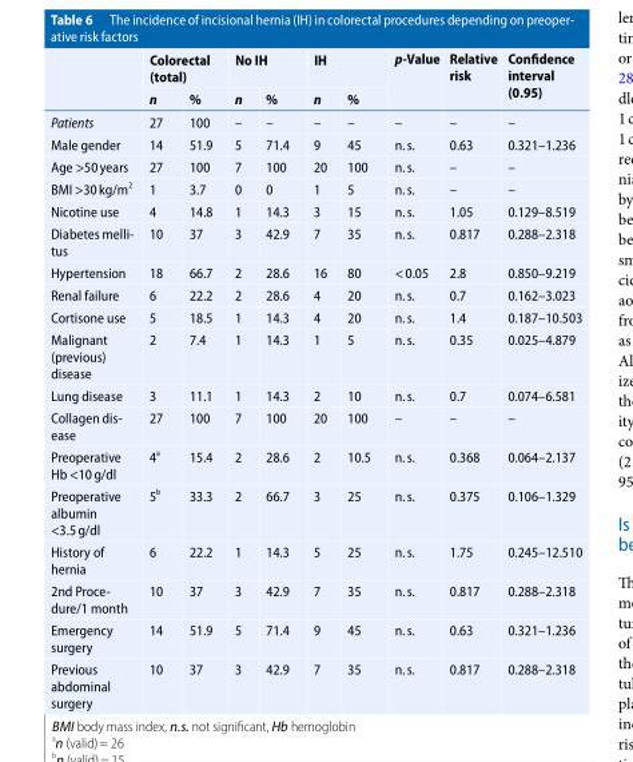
<table><thead><tr><td rowspan="2"></td><td colspan="2">Colorectal (total)</td><td colspan="2">No IH</td><td colspan="2">IH</td><td rowspan="2">p-Value</td><td rowspan="2">Relative risk</td><td rowspan="2">Confidence interval (0.95)</td></tr><tr><td>n</td><td>%</td><td>n</td><td>%</td><td>n</td><td>%</td></tr></thead><tbody><tr><td>Patients</td><td>27</td><td>100</td><td>–</td><td>–</td><td>–</td><td>–</td><td>–</td><td>–</td><td>–</td></tr><tr><td>Male gender</td><td>14</td><td>51.9</td><td>5</td><td>71.4</td><td>9</td><td>45</td><td>n.s.</td><td>0.63</td><td>0.321–1.236</td></tr><tr><td>Age &gt;50years</td><td>27</td><td>100</td><td>7</td><td>100</td><td>20</td><td>100</td><td>n.s.</td><td>–</td><td>–</td></tr><tr><td>BMI &gt;30kg/m<sup>2</sup></td><td>1</td><td>3.7</td><td>0</td><td>0</td><td>1</td><td>5</td><td>n.s.</td><td>–</td><td>–</td></tr><tr><td>Nicotine use</td><td>4</td><td>14.8</td><td>1</td><td>14.3</td><td>3</td><td>15</td><td>n.s.</td><td>1.05</td><td>0.129–8.519</td></tr><tr><td>Diabetes melli- tus</td><td>10</td><td>37</td><td>3</td><td>42.9</td><td>7</td><td>35</td><td>n.s.</td><td>0.817</td><td>0.288–2.318</td></tr><tr><td>Hypertension</td><td>18</td><td>66.7</td><td>2</td><td>28.6</td><td>16</td><td>80</td><td>&lt;0.05</td><td>2.8</td><td>0.850–9.219</td></tr><tr><td>Renal failure</td><td>6</td><td>22.2</td><td>2</td><td>28.6</td><td>4</td><td>20</td><td>n.s.</td><td>0.7</td><td>0.162–3.023</td></tr><tr><td>Cortisone use</td><td>5</td><td>18.5</td><td>1</td><td>14.3</td><td>4</td><td>20</td><td>n.s.</td><td>1.4</td><td>0.187–10.503</td></tr><tr><td>Malignant (previous) disease</td><td>2</td><td>7.4</td><td>1</td><td>14.3</td><td>1</td><td>5</td><td>n.s.</td><td>0.35</td><td>0.025–4.879</td></tr><tr><td>Lung disease</td><td>3</td><td>11.1</td><td>1</td><td>14.3</td><td>2</td><td>10</td><td>n.s.</td><td>0.7</td><td>0.074–6.581</td></tr><tr><td>Collagen dis- ease</td><td>27</td><td>100</td><td>7</td><td>100</td><td>20</td><td>100</td><td>–</td><td>–</td><td>–</td></tr><tr><td>Preoperative Hb &lt;10g/dl</td><td>4<sup>a</sup></td><td>15.4</td><td>2</td><td>28.6</td><td>2</td><td>10.5</td><td>n.s.</td><td>0.368</td><td>0.064–2.137</td></tr><tr><td>Preoperative albumin &lt;3.5g/dl</td><td>5<sup>b</sup></td><td>33.3</td><td>2</td><td>66.7</td><td>3</td><td>25</td><td>n.s.</td><td>0.375</td><td>0.106–1.329</td></tr><tr><td>History of hernia</td><td>6</td><td>22.2</td><td>1</td><td>14.3</td><td>5</td><td>25</td><td>n.s.</td><td>1.75</td><td>0.245–12.510</td></tr><tr><td>2nd Proce- dure/1 month</td><td>10</td><td>37</td><td>3</td><td>42.9</td><td>7</td><td>35</td><td>n.s.</td><td>0.817</td><td>0.288–2.318</td></tr><tr><td>Emergency surgery</td><td>14</td><td>51.9</td><td>5</td><td>71.4</td><td>9</td><td>45</td><td>n.s.</td><td>0.63</td><td>0.321–1.236</td></tr><tr><td>Previous abdominal surgery</td><td>10</td><td>37</td><td>3</td><td>42.9</td><td>7</td><td>35</td><td>n.s.</td><td>0.817</td><td>0.288–2.318</td></tr></tbody></table>